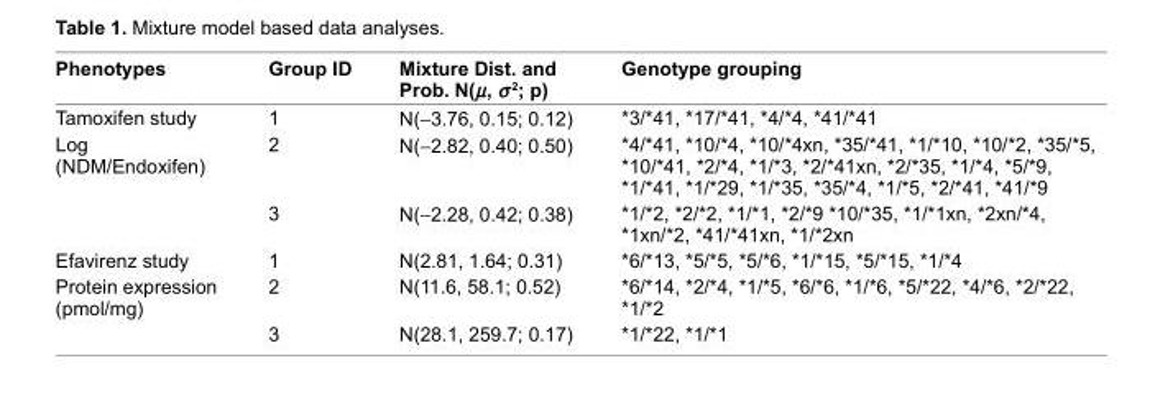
<table><thead><tr><td>phenotypes</td><td>Group ID</td><td>Mixture Dist. and prob. n(µ, σ 2; p)</td><td>Genotype grouping</td></tr></thead><tbody><tr><td>Tamoxifen study</td><td>1</td><td>n(-3.76, 0.15; 0.12)</td><td>*3/*41, *17/*41, *4/*4, *41/*41</td></tr><tr><td rowspan="2">Log (nDM/endoxifen)</td><td>2</td><td>n(-2.82, 0.40; 0.50)</td><td>*4/*41, *10/*4, *10/*4xn, *35/*41, *1/*10, *10/*2, *35/*5, *10/*41, *2/*4, *1/*3, *2/*41xn, *2/*35, *1/*4, *5/*9, *1/*41, *1/*29, *1/*35, *35/*4, *1/*5, *2/*41, *41/*9</td></tr><tr><td>3</td><td>n(-2.28, 0.42; 0.38)</td><td>*1/*2, *2/*2, *1/*1, *2/*9 *10/*35, *1/*1xn, *2xn/*4, *1xn/*2, *41/*41xn, *1/*2xn</td></tr><tr><td>efavirenz study</td><td>1</td><td>n(2.81, 1.64; 0.31)</td><td>*6/*13, *5/*5, *5/*6, *1/*15, *5/*15, *1/*4</td></tr><tr><td rowspan="2">Protein expression (pmol/mg)</td><td>2</td><td>n(11.6, 58.1; 0.52)</td><td>*6/*14, *2/*4, *1/*5, *6/*6, *1/*6, *5/*22, *4/*6, *2/*22, *1/*2</td></tr><tr><td>3</td><td>n(28.1, 259.7; 0.17)</td><td>*1/*22, *1/*1</td></tr></tbody></table>